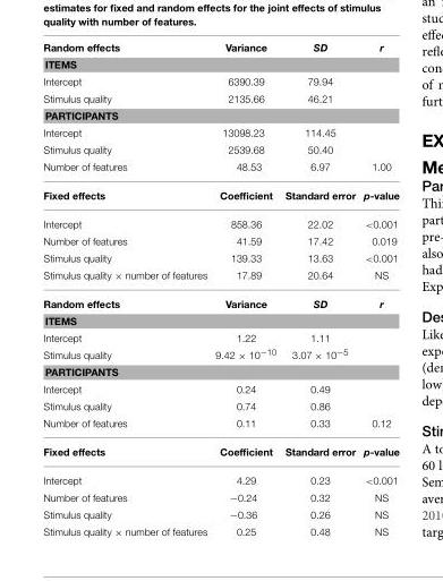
<table><thead><tr><td>Random effects</td><td>Variance</td><td>SD</td><td>r</td></tr></thead><tbody><tr><td colspan="4">ITEMS</td></tr><tr><td>Intercept</td><td>6390.39</td><td>79.94</td><td></td></tr><tr><td>Stimulus quality</td><td>2135.66</td><td>46.21</td><td></td></tr><tr><td colspan="4">PARTICIPANTS</td></tr><tr><td>Intercept</td><td>13098.23</td><td>114.45</td><td></td></tr><tr><td>Stimulus quality</td><td>2539.68</td><td>50.40</td><td></td></tr><tr><td>Number of features</td><td>48.53</td><td>6.97</td><td>1.00</td></tr><tr><td>Fixed effects</td><td>Coefficient</td><td>Standard error</td><td>p-value</td></tr><tr><td>Intercept</td><td>858.36</td><td>22.02</td><td>&lt;0.001</td></tr><tr><td>Number of features</td><td>41.59</td><td>17.42</td><td>0.019</td></tr><tr><td>Stimulus quality</td><td>139.33</td><td>13.63</td><td>&lt;0.001</td></tr><tr><td>Stimulus quality × number of features</td><td>17.89</td><td>20.64</td><td>NS</td></tr><tr><td>Random effects</td><td>Variance</td><td>SD</td><td>r</td></tr><tr><td colspan="4">ITEMS</td></tr><tr><td>Intercept</td><td>1.22</td><td>1.11</td><td></td></tr><tr><td>Stimulus quality</td><td>9.42 × 10−10</td><td>3.07 × 10−5</td><td></td></tr><tr><td colspan="4">PARTICIPANTS</td></tr><tr><td>Intercept</td><td>0.24</td><td>0.49</td><td></td></tr><tr><td>Stimulus quality</td><td>0.74</td><td>0.86</td><td></td></tr><tr><td>Number of features</td><td>0.11</td><td>0.33</td><td>0.12</td></tr><tr><td>Fixed effects</td><td>Coefficient</td><td>Standard error</td><td>p-value</td></tr><tr><td>Intercept</td><td>4.29</td><td>0.23</td><td>&lt;0.001</td></tr><tr><td>Number of features</td><td>−0.24</td><td>0.32</td><td>NS</td></tr><tr><td>Stimulus quality</td><td>−0.36</td><td>0.26</td><td>NS</td></tr><tr><td>Stimulus quality × number of features</td><td>0.25</td><td>0.48</td><td>NS</td></tr></tbody></table>